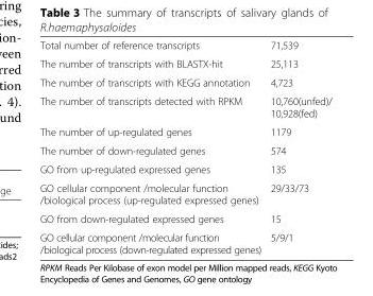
<table><tbody><tr><td>Total number of reference transcripts</td><td>71,539</td></tr><tr><td>The number of transcripts with BLASTX-hit</td><td>25,113</td></tr><tr><td>The number of transcripts with KEGG annotation</td><td>4,723</td></tr><tr><td>The number of transcripts detected with RPKM</td><td>10,760(unfed)/ 10,928(fed)</td></tr><tr><td>The number of up-regulated genes</td><td>1179</td></tr><tr><td>The number of down-regulated genes</td><td>574</td></tr><tr><td>GO from up-regulated expressed genes</td><td>135</td></tr><tr><td>GO cellular component /molecular function /biological process (up-regulated expressed genes)</td><td>29/33/73</td></tr><tr><td>GO from down-regulated expressed genes</td><td>15</td></tr><tr><td>GO cellular component /molecular function /biological process (down-regulated expressed genes)</td><td>5/9/1</td></tr></tbody></table>